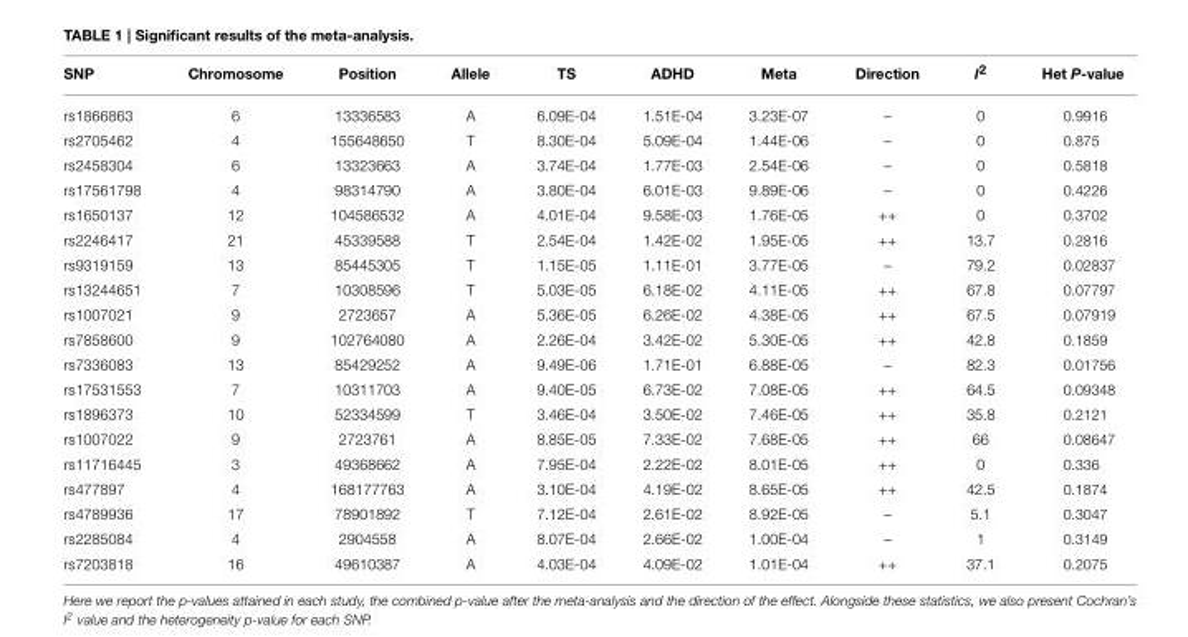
<table><thead><tr><td>SNP</td><td>Chromosome</td><td>Position</td><td>Allele</td><td>TS</td><td>ADHD</td><td>Meta</td><td>Direction</td><td>I<sup>2</sup></td><td>Het P-value</td></tr></thead><tbody><tr><td>rs1866863</td><td>6</td><td>13336583</td><td>A</td><td>6.09E-04</td><td>1.51E-04</td><td>3.23E-07</td><td>–</td><td>0</td><td>0.9916</td></tr><tr><td>rs2705462</td><td>4</td><td>155648650</td><td>T</td><td>8.30E-04</td><td>5.09E-04</td><td>1.44E-06</td><td>–</td><td>0</td><td>0.875</td></tr><tr><td>rs2458304</td><td>6</td><td>13323663</td><td>A</td><td>3.74E-04</td><td>1.77E-03</td><td>2.54E-06</td><td>–</td><td>0</td><td>0.5818</td></tr><tr><td>rs17561798</td><td>4</td><td>98314790</td><td>A</td><td>3.80E-04</td><td>6.01E-03</td><td>9.89E-06</td><td>–</td><td>0</td><td>0.4226</td></tr><tr><td>rs1650137</td><td>12</td><td>104586532</td><td>A</td><td>4.01E-04</td><td>9.58E-03</td><td>1.76E-05</td><td>++</td><td>0</td><td>0.3702</td></tr><tr><td>rs2246417</td><td>21</td><td>45339588</td><td>T</td><td>2.54E-04</td><td>1.42E-02</td><td>1.95E-05</td><td>++</td><td>13.7</td><td>0.2816</td></tr><tr><td>rs9319159</td><td>13</td><td>85445305</td><td>T</td><td>1.15E-05</td><td>1.11E-01</td><td>3.77E-05</td><td>–</td><td>79.2</td><td>0.02837</td></tr><tr><td>rs13244651</td><td>7</td><td>10308596</td><td>T</td><td>5.03E-05</td><td>6.18E-02</td><td>4.11E-05</td><td>++</td><td>67.8</td><td>0.07797</td></tr><tr><td>rs1007021</td><td>9</td><td>2723657</td><td>A</td><td>5.36E-05</td><td>6.26E-02</td><td>4.38E-05</td><td>++</td><td>67.5</td><td>0.07919</td></tr><tr><td>rs7858600</td><td>9</td><td>102764080</td><td>A</td><td>2.26E-04</td><td>3.42E-02</td><td>5.30E-05</td><td>++</td><td>42.8</td><td>0.1859</td></tr><tr><td>rs7336083</td><td>13</td><td>85429252</td><td>A</td><td>9.49E-06</td><td>1.71E-01</td><td>6.88E-05</td><td>–</td><td>82.3</td><td>0.01756</td></tr><tr><td>rs17531553</td><td>7</td><td>10311703</td><td>A</td><td>9.40E-05</td><td>6.73E-02</td><td>7.08E-05</td><td>++</td><td>64.5</td><td>0.09348</td></tr><tr><td>rs1896373</td><td>10</td><td>52334599</td><td>T</td><td>3.46E-04</td><td>3.50E-02</td><td>7.46E-05</td><td>++</td><td>35.8</td><td>0.2121</td></tr><tr><td>rs1007022</td><td>9</td><td>2723761</td><td>A</td><td>8.85E-05</td><td>7.33E-02</td><td>7.68E-05</td><td>++</td><td>66</td><td>0.08647</td></tr><tr><td>rs11716445</td><td>3</td><td>49368662</td><td>A</td><td>7.95E-04</td><td>2.22E-02</td><td>8.01E-05</td><td>++</td><td>0</td><td>0.336</td></tr><tr><td>rs477897</td><td>4</td><td>168177763</td><td>A</td><td>3.10E-04</td><td>4.19E-02</td><td>8.65E-05</td><td>++</td><td>42.5</td><td>0.1874</td></tr><tr><td>rs4789936</td><td>17</td><td>78901892</td><td>T</td><td>7.12E-04</td><td>2.61E-02</td><td>8.92E-05</td><td>–</td><td>5.1</td><td>0.3047</td></tr><tr><td>rs2285084</td><td>4</td><td>2904558</td><td>A</td><td>8.07E-04</td><td>2.66E-02</td><td>1.00E-04</td><td>–</td><td>1</td><td>0.3149</td></tr><tr><td>rs7203818</td><td>16</td><td>49610387</td><td>A</td><td>4.03E-04</td><td>4.09E-02</td><td>1.01E-04</td><td>++</td><td>37.1</td><td>0.2075</td></tr></tbody></table>